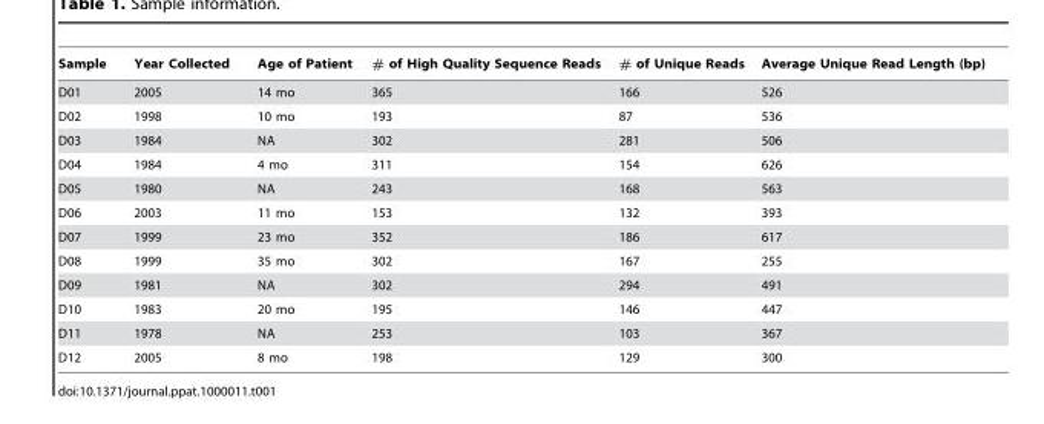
<table><thead><tr><td>Sample</td><td>Year Collected</td><td>Age of Patient</td><td># of High Quality Sequence Reads</td><td># of Unique Reads</td><td>Average Unique Read Length (bp)</td></tr></thead><tbody><tr><td>D01</td><td>2005</td><td>14 mo</td><td>365</td><td>166</td><td>526</td></tr><tr><td>D02</td><td>1998</td><td>10 mo</td><td>193</td><td>87</td><td>536</td></tr><tr><td>D03</td><td>1984</td><td>NA</td><td>302</td><td>281</td><td>506</td></tr><tr><td>D04</td><td>1984</td><td>4 mo</td><td>311</td><td>154</td><td>626</td></tr><tr><td>D05</td><td>1980</td><td>NA</td><td>243</td><td>168</td><td>563</td></tr><tr><td>D06</td><td>2003</td><td>11 mo</td><td>153</td><td>132</td><td>393</td></tr><tr><td>D07</td><td>1999</td><td>23 mo</td><td>352</td><td>186</td><td>617</td></tr><tr><td>D08</td><td>1999</td><td>35 mo</td><td>302</td><td>167</td><td>255</td></tr><tr><td>D09</td><td>1981</td><td>NA</td><td>302</td><td>294</td><td>491</td></tr><tr><td>D10</td><td>1983</td><td>20 mo</td><td>195</td><td>146</td><td>447</td></tr><tr><td>D11</td><td>1978</td><td>NA</td><td>253</td><td>103</td><td>367</td></tr><tr><td>D12</td><td>2005</td><td>8 mo</td><td>198</td><td>129</td><td>300</td></tr></tbody></table>